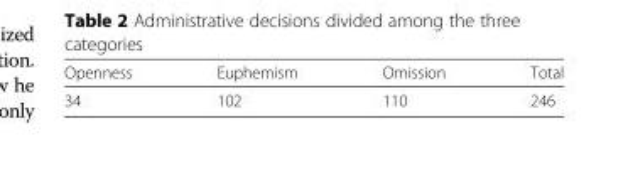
<table><thead><tr><td>Openness</td><td>Euphemism</td><td>Omission</td><td>Total</td></tr></thead><tbody><tr><td>34</td><td>102</td><td>110</td><td>246</td></tr></tbody></table>